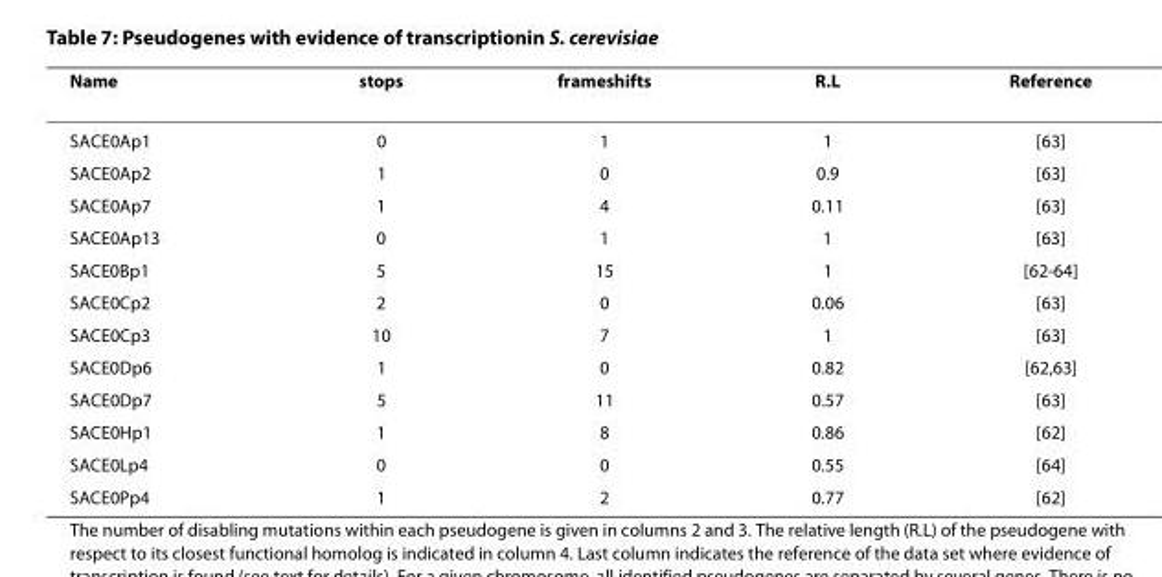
<table><thead><tr><td>Name</td><td>stops</td><td>frameshifts</td><td>R.L</td><td>Reference</td></tr></thead><tbody><tr><td>SACE0Ap1</td><td>0</td><td>1</td><td>1</td><td>[63]</td></tr><tr><td>SACE0Ap2</td><td>1</td><td>0</td><td>0.9</td><td>[63]</td></tr><tr><td>SACE0Ap7</td><td>1</td><td>4</td><td>0.11</td><td>[63]</td></tr><tr><td>SACE0Ap13</td><td>0</td><td>1</td><td>1</td><td>[63]</td></tr><tr><td>SACE0Bp1</td><td>5</td><td>15</td><td>1</td><td>[62-64]</td></tr><tr><td>SACE0Cp2</td><td>2</td><td>0</td><td>0.06</td><td>[63]</td></tr><tr><td>SACE0Cp3</td><td>10</td><td>7</td><td>1</td><td>[63]</td></tr><tr><td>SACE0Dp6</td><td>1</td><td>0</td><td>0.82</td><td>[62,63]</td></tr><tr><td>SACE0Dp7</td><td>5</td><td>11</td><td>0.57</td><td>[63]</td></tr><tr><td>SACE0Hp1</td><td>1</td><td>8</td><td>0.86</td><td>[62]</td></tr><tr><td>SACE0Lp4</td><td>0</td><td>0</td><td>0.55</td><td>[64]</td></tr><tr><td>SACE0Pp4</td><td>1</td><td>2</td><td>0.77</td><td>[62]</td></tr></tbody></table>